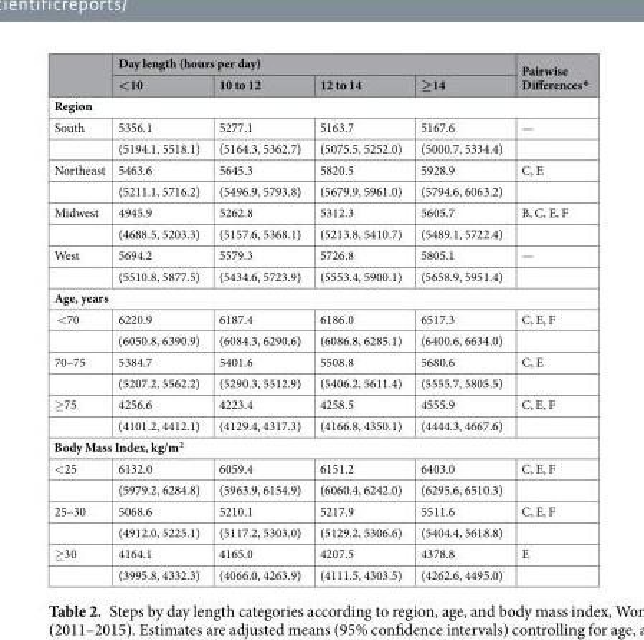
<table><thead><tr><td rowspan="2"></td><td colspan="4">Day length (hours per day)</td><td rowspan="2">Pairwise Differences*</td></tr><tr><td>&lt;10</td><td>10 to 12</td><td>12 to 14</td><td>≥14</td></tr></thead><tbody><tr><td colspan="6">Region</td></tr><tr><td rowspan="2">South</td><td>5356.1</td><td>5277.1</td><td>5163.7</td><td>5167.6</td><td>—</td></tr><tr><td>(5194.1, 5518.1)</td><td>(5164.3, 5362.7)</td><td>(5075.5, 5252.0)</td><td>(5000.7, 5334.4)</td><td></td></tr><tr><td rowspan="2">Northeast</td><td>5463.6</td><td>5645.3</td><td>5820.5</td><td>5928.9</td><td>C, E</td></tr><tr><td>(5211.1, 5716.2)</td><td>(5496.9, 5793.8)</td><td>(5679.9, 5961.0)</td><td>(5794.6, 6063.2)</td><td></td></tr><tr><td rowspan="2">Midwest</td><td>4945.9</td><td>5262.8</td><td>5312.3</td><td>5605.7</td><td>B, C, E, F</td></tr><tr><td>(4688.5, 5203.3)</td><td>(5157.6, 5368.1)</td><td>(5213.8, 5410.7)</td><td>(5489.1, 5722.4)</td><td></td></tr><tr><td rowspan="2">West</td><td>5694.2</td><td>5579.3</td><td>5726.8</td><td>5805.1</td><td>—</td></tr><tr><td>(5510.8, 5877.5)</td><td>(5434.6, 5723.9)</td><td>(5553.4, 5900.1)</td><td>(5658.9, 5951.4)</td><td></td></tr><tr><td colspan="6">Age, years</td></tr><tr><td rowspan="2">&lt;70</td><td>6220.9</td><td>6187.4</td><td>6186.0</td><td>6517.3</td><td>C, E, F</td></tr><tr><td>(6050.8, 6390.9)</td><td>(6084.3, 6290.6)</td><td>(6086.8, 6285.1)</td><td>(6400.6, 6634.0)</td><td></td></tr><tr><td rowspan="2">70–75</td><td>5384.7</td><td>5401.6</td><td>5508.8</td><td>5680.6</td><td>C, E</td></tr><tr><td>(5207.2, 5562.2)</td><td>(5290.3, 5512.9)</td><td>(5406.2, 5611.4)</td><td>(5555.7, 5805.5)</td><td></td></tr><tr><td rowspan="2">≥75</td><td>4256.6</td><td>4223.4</td><td>4258.5</td><td>4555.9</td><td>C, E, F</td></tr><tr><td>(4101.2, 4412.1)</td><td>(4129.4, 4317.3)</td><td>(4166.8, 4350.1)</td><td>(4444.3, 4667.6)</td><td></td></tr><tr><td colspan="6">Body Mass Index, kg/m<sup>2</sup></td></tr><tr><td rowspan="2">&lt;25</td><td>6132.0</td><td>6059.4</td><td>6151.2</td><td>6403.0</td><td>C, E, F</td></tr><tr><td>(5979.2, 6284.8)</td><td>(5963.9, 6154.9)</td><td>(6060.4, 6242.0)</td><td>(6295.6, 6510.3)</td><td></td></tr><tr><td rowspan="2">25–30</td><td>5068.6</td><td>5210.1</td><td>5217.9</td><td>5511.6</td><td>C, E, F</td></tr><tr><td>(4912.0, 5225.1)</td><td>(5117.2, 5303.0)</td><td>(5129.2, 5306.6)</td><td>(5404.4, 5618.8)</td><td></td></tr><tr><td rowspan="2">≥30</td><td>4164.1</td><td>4165.0</td><td>4207.5</td><td>4378.8</td><td>E</td></tr><tr><td>(3995.8, 4332.3)</td><td>(4066.0, 4263.9)</td><td>(4111.5, 4303.5)</td><td>(4262.6, 4495.0)</td><td></td></tr></tbody></table>